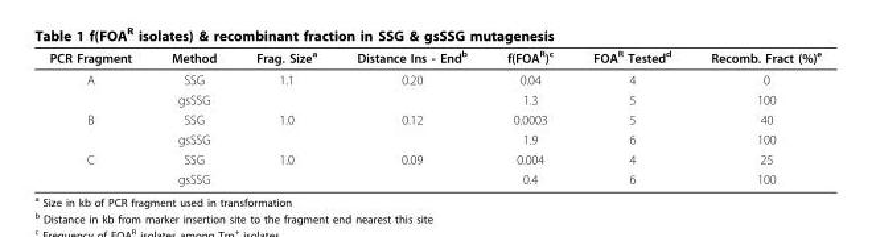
<table><thead><tr><td>PCR Fragment</td><td>Method</td><td>Frag. Size<sup>a</sup></td><td>Distance Ins - End<sup>b</sup></td><td>f(FOA<sup>R</sup>)<sup>c</sup></td><td>FOA<sup>R</sup> Tested<sup>d</sup></td><td>Recomb. Fract (%)<sup>e</sup></td></tr></thead><tbody><tr><td rowspan="2">A</td><td>SSG</td><td>1.1</td><td>0.20</td><td>0.04</td><td>4</td><td>0</td></tr><tr><td>gsSSG</td><td></td><td></td><td>1.3</td><td>5</td><td>100</td></tr><tr><td rowspan="2">B</td><td>SSG</td><td>1.0</td><td>0.12</td><td>0.0003</td><td>5</td><td>40</td></tr><tr><td>gsSSG</td><td></td><td></td><td>1.9</td><td>6</td><td>100</td></tr><tr><td rowspan="2">C</td><td>SSG</td><td>1.0</td><td>0.09</td><td>0.004</td><td>4</td><td>25</td></tr><tr><td>gsSSG</td><td></td><td></td><td>0.4</td><td>6</td><td>100</td></tr></tbody></table>